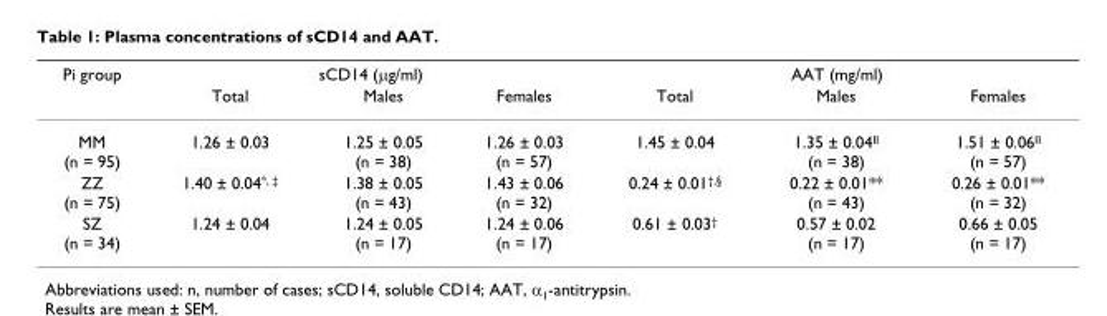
<table><thead><tr><td rowspan="2">Pi group</td><td colspan="3">sCD14 (µg/ml)</td><td colspan="3">AAT (mg/ml)</td></tr><tr><td>Total</td><td>Males</td><td>Females</td><td>Total</td><td>Males</td><td>Females</td></tr></thead><tbody><tr><td>MM (n = 95)</td><td>1.26 ± 0.03</td><td>1.25 ± 0.05 (n = 38)</td><td>1.26 ± 0.03 (n = 57)</td><td>1.45 ± 0.04</td><td>1.35 ± 0.04<sup>II</sup> (n = 38)</td><td>1.51 ± 0.06<sup>II</sup> (n = 57)</td></tr><tr><td>ZZ (n = 75)</td><td>1.40 ± 0.04<sup>*, ‡</sup></td><td>1.38 ± 0.05 (n = 43)</td><td>1.43 ± 0.06 (n = 32)</td><td>0.24 ± 0.01<sup>†,§</sup></td><td>0.22 ± 0.01** (n = 43)</td><td>0.26 ± 0.01** (n = 32)</td></tr><tr><td>SZ (n = 34)</td><td>1.24 ± 0.04</td><td>1.24 ± 0.05 (n = 17)</td><td>1.24 ± 0.06 (n = 17)</td><td>0.61 ± 0.03<sup>†</sup></td><td>0.57 ± 0.02 (n = 17)</td><td>0.66 ± 0.05 (n = 17)</td></tr></tbody></table>